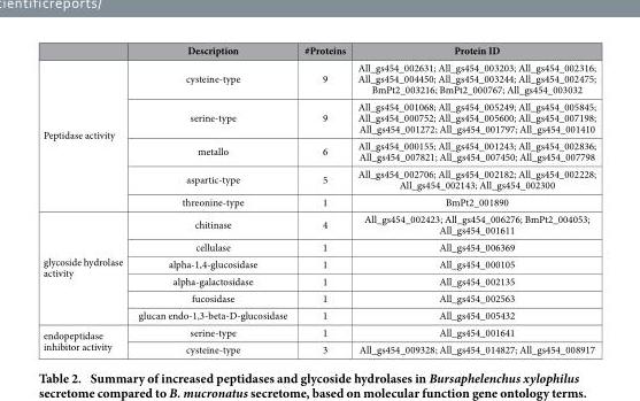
<table><thead><tr><td></td><td>Description</td><td>#Proteins</td><td>Protein ID</td></tr></thead><tbody><tr><td rowspan="5">Peptidase activity</td><td>cysteine-type</td><td>9</td><td>All_gs454_002631; All_gs454_003203; All_gs454_002316; All_gs454_004450; All_gs454_003244; All_gs454_002475; BmPt2_003216; BmPt2_000767; All_gs454_003032</td></tr><tr><td>serine-type</td><td>9</td><td>All_gs454_001068; All_gs454_005249; All_gs454_005845; All_gs454_000752; All_gs454_005600; All_gs454_007198; All_gs454_001272; All_gs454_001797; All_gs454_001410</td></tr><tr><td>metallo</td><td>6</td><td>All_gs454_000155; All_gs454_001243; All_gs454_002836; All_gs454_007821; All_gs454_007450; All_gs454_007798</td></tr><tr><td>aspartic-type</td><td>5</td><td>All_gs454_002706; All_gs454_002182; All_gs454_002228; All_gs454_002143; All_gs454_002300</td></tr><tr><td>threonine-type</td><td>1</td><td>BmPt2_001890</td></tr><tr><td rowspan="6">glycoside hydrolase activity</td><td>chitinase</td><td>4</td><td>All_gs454_002423; All_gs454_006276; BmPt2_004053; All_gs454_001611</td></tr><tr><td>cellulase</td><td>1</td><td>All_gs454_006369</td></tr><tr><td>alpha-1,4-glucosidase</td><td>1</td><td>All_gs454_000105</td></tr><tr><td>alpha-galactosidase</td><td>1</td><td>All_gs454_002135</td></tr><tr><td>fucosidase</td><td>1</td><td>All_gs454_002563</td></tr><tr><td>glucan endo-1,3-beta-D-glucosidase</td><td>1</td><td>All_gs454_005432</td></tr><tr><td rowspan="2">endopeptidase inhibitor activity</td><td>serine-type</td><td>1</td><td>All_gs454_001641</td></tr><tr><td>cysteine-type</td><td>3</td><td>All_gs454_009328; All_gs454_014827; All_gs454_008917</td></tr></tbody></table>